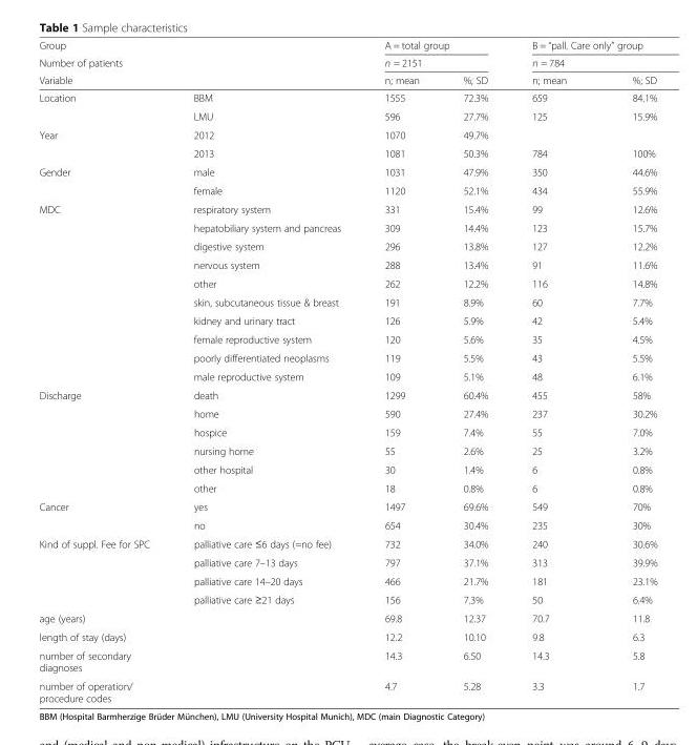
<table><thead><tr><td rowspan="3">Group Number of patients Variable</td><td rowspan="3"></td><td rowspan="2" colspan="2">A = total group n = 2151</td><td rowspan="2" colspan="2">B = “pall. Care only” group n = 784</td></tr><tr></tr><tr><td>n; mean</td><td>%; SD</td><td>n; mean</td><td>%; SD</td></tr></thead><tbody><tr><td rowspan="2">Location</td><td>BBM</td><td>1555</td><td>72.3%</td><td>659</td><td>84.1%</td></tr><tr><td>LMU</td><td>596</td><td>27.7%</td><td>125</td><td>15.9%</td></tr><tr><td rowspan="2">Year</td><td>2012</td><td>1070</td><td>49.7%</td><td></td><td></td></tr><tr><td>2013</td><td>1081</td><td>50.3%</td><td>784</td><td>100%</td></tr><tr><td rowspan="2">Gender</td><td>male</td><td>1031</td><td>47.9%</td><td>350</td><td>44.6%</td></tr><tr><td>female</td><td>1120</td><td>52.1%</td><td>434</td><td>55.9%</td></tr><tr><td rowspan="10">MDC</td><td>respiratory system</td><td>331</td><td>15.4%</td><td>99</td><td>12.6%</td></tr><tr><td>hepatobiliary system and pancreas</td><td>309</td><td>14.4%</td><td>123</td><td>15.7%</td></tr><tr><td>digestive system</td><td>296</td><td>13.8%</td><td>127</td><td>12.2%</td></tr><tr><td>nervous system</td><td>288</td><td>13.4%</td><td>91</td><td>11.6%</td></tr><tr><td>other</td><td>262</td><td>12.2%</td><td>116</td><td>14.8%</td></tr><tr><td>skin, subcutaneous tissue &amp; breast</td><td>191</td><td>8.9%</td><td>60</td><td>7.7%</td></tr><tr><td>kidney and urinary tract</td><td>126</td><td>5.9%</td><td>42</td><td>5.4%</td></tr><tr><td>female reproductive system</td><td>120</td><td>5.6%</td><td>35</td><td>4.5%</td></tr><tr><td>poorly differentiated neoplasms</td><td>119</td><td>5.5%</td><td>43</td><td>5.5%</td></tr><tr><td>male reproductive system</td><td>109</td><td>5.1%</td><td>48</td><td>6.1%</td></tr><tr><td rowspan="6">Discharge</td><td>death</td><td>1299</td><td>60.4%</td><td>455</td><td>58%</td></tr><tr><td>home</td><td>590</td><td>27.4%</td><td>237</td><td>30.2%</td></tr><tr><td>hospice</td><td>159</td><td>7.4%</td><td>55</td><td>7.0%</td></tr><tr><td>nursing home</td><td>55</td><td>2.6%</td><td>25</td><td>3.2%</td></tr><tr><td>other hospital</td><td>30</td><td>1.4%</td><td>6</td><td>0.8%</td></tr><tr><td>other</td><td>18</td><td>0.8%</td><td>6</td><td>0.8%</td></tr><tr><td rowspan="2">Cancer</td><td>yes</td><td>1497</td><td>69.6%</td><td>549</td><td>70%</td></tr><tr><td>no</td><td>654</td><td>30.4%</td><td>235</td><td>30%</td></tr><tr><td rowspan="4">Kind of suppl. Fee for SPC</td><td>palliative care ≤6 days (=no fee)</td><td>732</td><td>34.0%</td><td>240</td><td>30.6%</td></tr><tr><td>palliative care 7–13 days</td><td>797</td><td>37.1%</td><td>313</td><td>39.9%</td></tr><tr><td>palliative care 14–20 days</td><td>466</td><td>21.7%</td><td>181</td><td>23.1%</td></tr><tr><td>palliative care ≥21 days</td><td>156</td><td>7.3%</td><td>50</td><td>6.4%</td></tr><tr><td>age (years)</td><td></td><td>69.8</td><td>12.37</td><td>70.7</td><td>11.8</td></tr><tr><td>length of stay (days)</td><td></td><td>12.2</td><td>10.10</td><td>9.8</td><td>6.3</td></tr><tr><td colspan="2">number of secondary diagnoses</td><td>14.3</td><td>6.50</td><td>14.3</td><td>5.8</td></tr><tr><td colspan="2">number of operation/ procedure codes</td><td>4.7</td><td>5.28</td><td>3.3</td><td>1.7</td></tr></tbody></table>